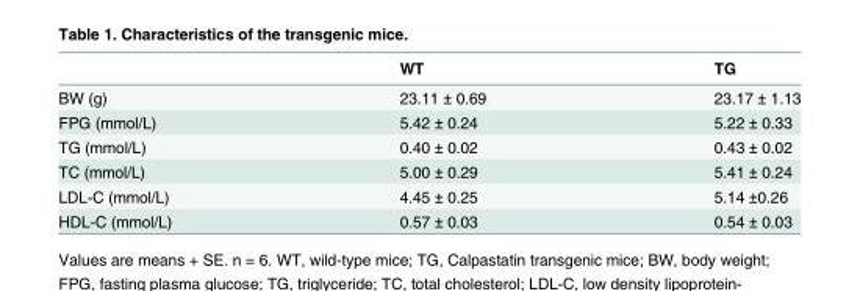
<table><thead><tr><td></td><td>WT</td><td>TG</td></tr></thead><tbody><tr><td>BW (g)</td><td>23.11 ± 0.69</td><td>23.17 ± 1.13</td></tr><tr><td>FPG (mmol/L)</td><td>5.42 ± 0.24</td><td>5.22 ± 0.33</td></tr><tr><td>TG (mmol/L)</td><td>0.40 ± 0.02</td><td>0.43 ± 0.02</td></tr><tr><td>TC (mmol/L)</td><td>5.00 ± 0.29</td><td>5.41 ± 0.24</td></tr><tr><td>LDL-C (mmol/L)</td><td>4.45 ± 0.25</td><td>5.14 ±0.26</td></tr><tr><td>HDL-C (mmol/L)</td><td>0.57 ± 0.03</td><td>0.54 ± 0.03</td></tr></tbody></table>